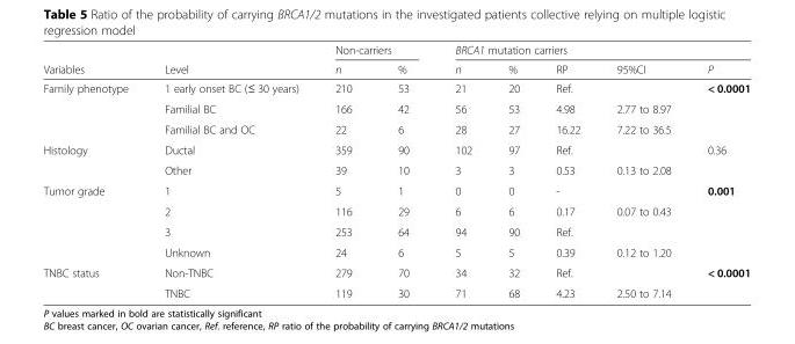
<table><thead><tr><td rowspan="2">Variables</td><td rowspan="2">Level</td><td colspan="2">Non-carriers</td><td colspan="5">BRCA1 mutation carriers</td></tr><tr><td>n</td><td>%</td><td>n</td><td>%</td><td>RP</td><td>95%CI</td><td>P</td></tr></thead><tbody><tr><td rowspan="3">Family phenotype</td><td>1 early onset BC (≤ 30 years)</td><td>210</td><td>53</td><td>21</td><td>20</td><td>Ref.</td><td></td><td>&lt; 0.0001</td></tr><tr><td>Familial BC</td><td>166</td><td>42</td><td>56</td><td>53</td><td>4.98</td><td>2.77 to 8.97</td><td></td></tr><tr><td>Familial BC and OC</td><td>22</td><td>6</td><td>28</td><td>27</td><td>16.22</td><td>7.22 to 36.5</td><td></td></tr><tr><td rowspan="2">Histology</td><td>Ductal</td><td>359</td><td>90</td><td>102</td><td>97</td><td>Ref.</td><td></td><td>0.36</td></tr><tr><td>Other</td><td>39</td><td>10</td><td>3</td><td>3</td><td>0.53</td><td>0.13 to 2.08</td><td></td></tr><tr><td rowspan="4">Tumor grade</td><td>1</td><td>5</td><td>1</td><td>0</td><td>0</td><td>-</td><td></td><td>0.001</td></tr><tr><td>2</td><td>116</td><td>29</td><td>6</td><td>6</td><td>0.17</td><td>0.07 to 0.43</td><td></td></tr><tr><td>3</td><td>253</td><td>64</td><td>94</td><td>90</td><td>Ref.</td><td></td><td></td></tr><tr><td>Unknown</td><td>24</td><td>6</td><td>5</td><td>5</td><td>0.39</td><td>0.12 to 1.20</td><td></td></tr><tr><td rowspan="2">TNBC status</td><td>Non-TNBC</td><td>279</td><td>70</td><td>34</td><td>32</td><td>Ref.</td><td></td><td>&lt; 0.0001</td></tr><tr><td>TNBC</td><td>119</td><td>30</td><td>71</td><td>68</td><td>4.23</td><td>2.50 to 7.14</td><td></td></tr></tbody></table>